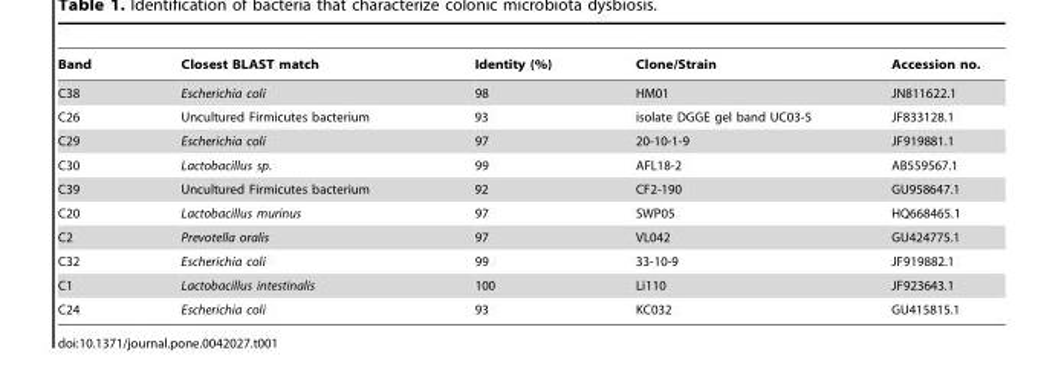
<table><thead><tr><td>Band</td><td>Closest BLAST match</td><td>Identity (%)</td><td>Clone/Strain</td><td>Accession no.</td></tr></thead><tbody><tr><td>C38</td><td>Escherichia coli</td><td>98</td><td>HM01</td><td>JN811622.1</td></tr><tr><td>C26</td><td>Uncultured Firmicutes bacterium</td><td>93</td><td>isolate DGGE gel band UC03-5</td><td>JF833128.1</td></tr><tr><td>C29</td><td>Escherichia coli</td><td>97</td><td>20-10-1-9</td><td>JF919881.1</td></tr><tr><td>C30</td><td>Lactobacillus sp.</td><td>99</td><td>AFL18-2</td><td>AB559567.1</td></tr><tr><td>C39</td><td>Uncultured Firmicutes bacterium</td><td>92</td><td>CF2-190</td><td>GU958647.1</td></tr><tr><td>C20</td><td>Lactobacillus murinus</td><td>97</td><td>SWP05</td><td>HQ668465.1</td></tr><tr><td>C2</td><td>Prevotella oralis</td><td>97</td><td>VL042</td><td>GU424775.1</td></tr><tr><td>C32</td><td>Escherichia coli</td><td>99</td><td>33-10-9</td><td>JF919882.1</td></tr><tr><td>C1</td><td>Lactobacillus intestinalis</td><td>100</td><td>Li110</td><td>JF923643.1</td></tr><tr><td>C24</td><td>Escherichia coli</td><td>93</td><td>KC032</td><td>GU415815.1</td></tr></tbody></table>